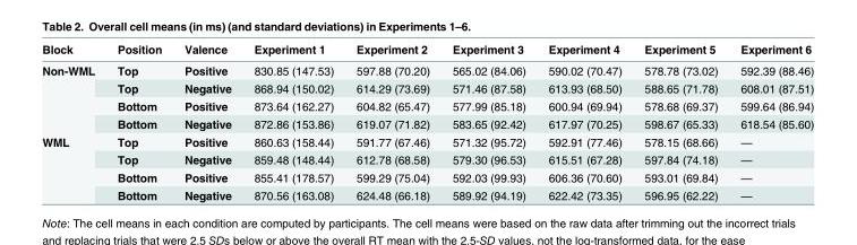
<table><thead><tr><td>Block</td><td>Position</td><td>Valence</td><td>Experiment 1</td><td>Experiment 2</td><td>Experiment 3</td><td>Experiment 4</td><td>Experiment 5</td><td>Experiment 6</td></tr></thead><tbody><tr><td rowspan="4">Non-WML</td><td>Top</td><td>Positive</td><td>830.85 (147.53)</td><td>597.88 (70.20)</td><td>565.02 (84.06)</td><td>590.02 (70.47)</td><td>578.78 (73.02)</td><td>592.39 (88.46)</td></tr><tr><td>Top</td><td>Negative</td><td>868.94 (150.02)</td><td>614.29 (73.69)</td><td>571.46 (87.58)</td><td>613.93 (68.50)</td><td>588.65 (71.78)</td><td>608.01 (87.51)</td></tr><tr><td>Bottom</td><td>Positive</td><td>873.64 (162.27)</td><td>604.82 (65.47)</td><td>577.99 (85.18)</td><td>600.94 (69.94)</td><td>578.68 (69.37)</td><td>599.64 (86.94)</td></tr><tr><td>Bottom</td><td>Negative</td><td>872.86 (153.86)</td><td>619.07 (71.82)</td><td>583.65 (92.42)</td><td>617.97 (70.25)</td><td>598.67 (65.33)</td><td>618.54 (85.60)</td></tr><tr><td rowspan="4">WML</td><td>Top</td><td>Positive</td><td>860.63 (158.44)</td><td>591.77 (67.46)</td><td>571.32 (95.72)</td><td>592.91 (77.46)</td><td>578.15 (68.66)</td><td>—</td></tr><tr><td>Top</td><td>Negative</td><td>859.48 (148.44)</td><td>612.78 (68.58)</td><td>579.30 (96.53)</td><td>615.51 (67.28)</td><td>597.84 (74.18)</td><td>—</td></tr><tr><td>Bottom</td><td>Positive</td><td>855.41 (178.57)</td><td>599.29 (75.04)</td><td>592.03 (99.93)</td><td>606.36 (70.60)</td><td>593.01 (69.84)</td><td>—</td></tr><tr><td>Bottom</td><td>Negative</td><td>870.56 (163.08)</td><td>624.48 (66.18)</td><td>589.92 (94.19)</td><td>622.42 (73.35)</td><td>596.95 (62.22)</td><td>—</td></tr></tbody></table>